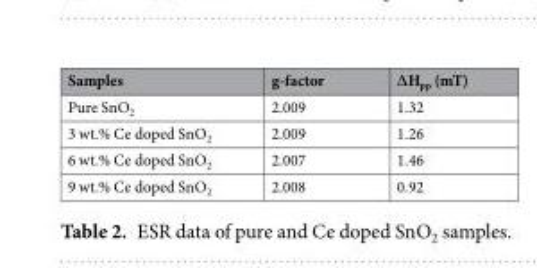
<table><thead><tr><td>Samples</td><td>g-factor</td><td>∆H<sub>pp</sub> (mT)</td></tr></thead><tbody><tr><td>Pure SnO<sub>2</sub></td><td>2.009</td><td>1.32</td></tr><tr><td>3 wt.% Ce doped SnO<sub>2</sub></td><td>2.009</td><td>1.26</td></tr><tr><td>6 wt.% Ce doped SnO<sub>2</sub></td><td>2.007</td><td>1.46</td></tr><tr><td>9 wt.% Ce doped SnO<sub>2</sub></td><td>2.008</td><td>0.92</td></tr></tbody></table>